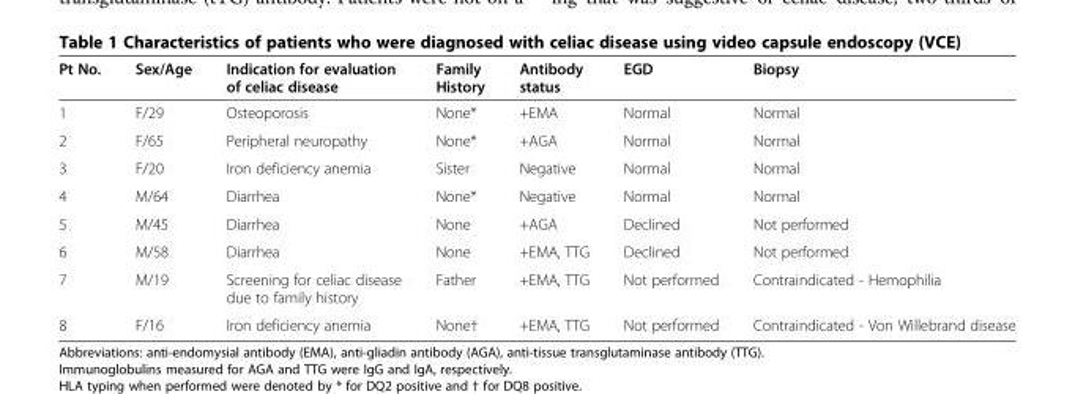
<table><thead><tr><td>Pt No.</td><td>Sex/Age</td><td>Indication for evaluation of celiac disease</td><td>Family History</td><td>Antibody status</td><td>EGD</td><td>Biopsy</td></tr></thead><tbody><tr><td>1</td><td>F/29</td><td>Osteoporosis</td><td>None*</td><td>+EMA</td><td>Normal</td><td>Normal</td></tr><tr><td>2</td><td>F/65</td><td>Peripheral neuropathy</td><td>None*</td><td>+AGA</td><td>Normal</td><td>Normal</td></tr><tr><td>3</td><td>F/20</td><td>Iron deficiency anemia</td><td>Sister</td><td>Negative</td><td>Normal</td><td>Normal</td></tr><tr><td>4</td><td>M/64</td><td>Diarrhea</td><td>None*</td><td>Negative</td><td>Normal</td><td>Normal</td></tr><tr><td>5</td><td>M/45</td><td>Diarrhea</td><td>None</td><td>+AGA</td><td>Declined</td><td>Not performed</td></tr><tr><td>6</td><td>M/58</td><td>Diarrhea</td><td>None</td><td>+EMA, TTG</td><td>Declined</td><td>Not performed</td></tr><tr><td>7</td><td>M/19</td><td>Screening for celiac disease due to family history</td><td>Father</td><td>+EMA, TTG</td><td>Not performed</td><td>Contraindicated - Hemophilia</td></tr><tr><td>8</td><td>F/16</td><td>Iron deficiency anemia</td><td>None†</td><td>+EMA, TTG</td><td>Not performed</td><td>Contraindicated - Von Willebrand disease</td></tr></tbody></table>